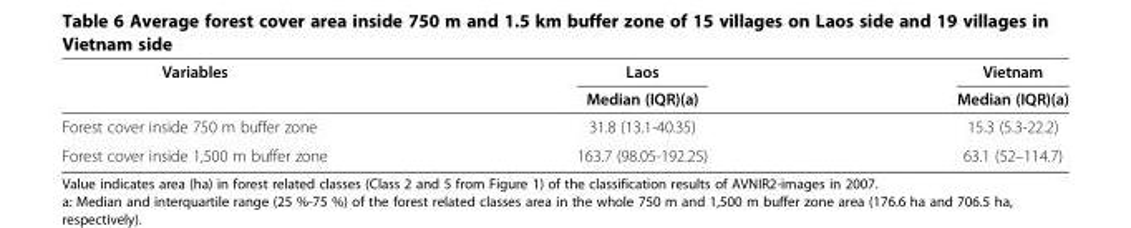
<table><thead><tr><td rowspan="2">Variables</td><td rowspan="2">Laos Median (IQR)(a)</td><td rowspan="2">Vietnam Median (IQR)(a)</td></tr><tr></tr></thead><tbody><tr><td>Forest cover inside 750 m buffer zone</td><td>31.8 (13.1-40.35)</td><td>15.3 (5.3-22.2)</td></tr><tr><td>Forest cover inside 1,500 m buffer zone</td><td>163.7 (98.05-192.25)</td><td>63.1 (52–114.7)</td></tr></tbody></table>